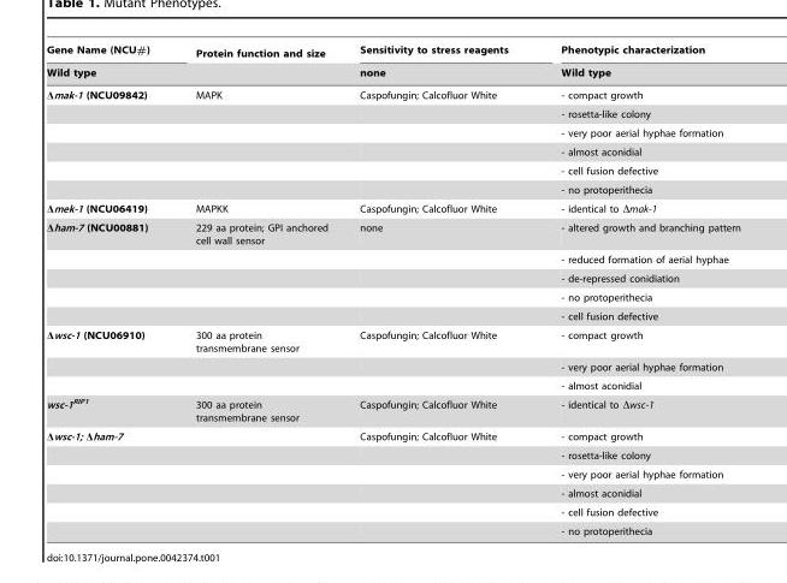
<table><thead><tr><td rowspan="2">Gene Name (NCU#) Wild type</td><td rowspan="2">Protein function and size</td><td rowspan="2">Sensitivity to stress reagents none</td><td rowspan="2">Phenotypic characterization Wild type</td></tr><tr></tr></thead><tbody><tr><td rowspan="6">Δmak-1 (NCU09842)</td><td>MAPK</td><td>Caspofungin; Calcofluor White</td><td>- compact growth</td></tr><tr><td></td><td></td><td>- rosetta-like colony</td></tr><tr><td></td><td></td><td>- very poor aerial hyphae formation</td></tr><tr><td></td><td></td><td>- almost aconidial</td></tr><tr><td></td><td></td><td>- cell fusion defective</td></tr><tr><td></td><td></td><td>- no protoperithecia</td></tr><tr><td>Δmek-1 (NCU06419)</td><td>MAPKK</td><td>Caspofungin; Calcofluor White</td><td>- identical to Δmak-1</td></tr><tr><td rowspan="5">Δham-7 (NCU00881)</td><td>229 aa protein; GPI anchored cell wall sensor</td><td>none</td><td>- altered growth and branching pattern</td></tr><tr><td></td><td></td><td>- reduced formation of aerial hyphae</td></tr><tr><td></td><td></td><td>- de-repressed conidiation</td></tr><tr><td></td><td></td><td>- no protoperithecia</td></tr><tr><td></td><td></td><td>- cell fusion defective</td></tr><tr><td rowspan="3">Δwsc-1 (NCU06910)</td><td>300 aa protein transmembrane sensor</td><td>Caspofungin; Calcofluor White</td><td>- compact growth</td></tr><tr><td></td><td></td><td>- very poor aerial hyphae formation</td></tr><tr><td></td><td></td><td>- almost aconidial</td></tr><tr><td>wsc-1<sup>RIP1</sup></td><td>300 aa protein transmembrane sensor</td><td>Caspofungin; Calcofluor White</td><td>- identical to Δwsc-1</td></tr><tr><td rowspan="6">Δwsc-1; Δham-7</td><td></td><td>Caspofungin; Calcofluor White</td><td>- compact growth</td></tr><tr><td></td><td></td><td>- rosetta-like colony</td></tr><tr><td></td><td></td><td>- very poor aerial hyphae formation</td></tr><tr><td></td><td></td><td>- almost aconidial</td></tr><tr><td></td><td></td><td>- cell fusion defective</td></tr><tr><td></td><td></td><td>- no protoperithecia</td></tr></tbody></table>